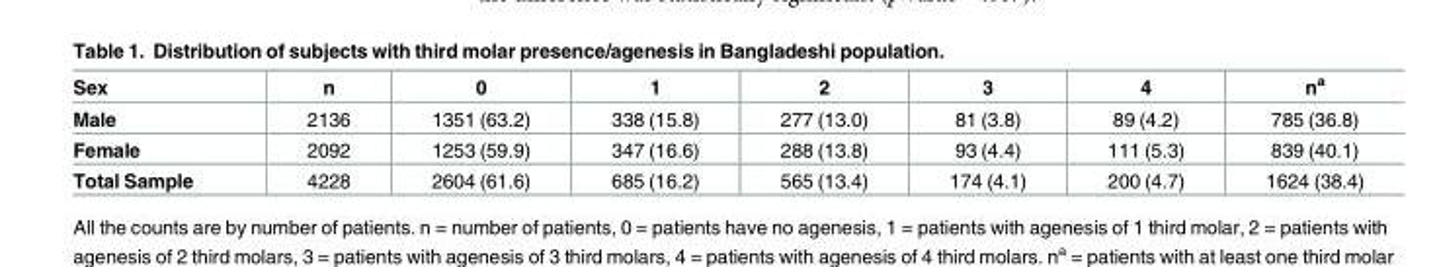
<table><thead><tr><td>Sex</td><td>n</td><td>0</td><td>1</td><td>2</td><td>3</td><td>4</td><td>n<sup>a</sup></td></tr></thead><tbody><tr><td>Male</td><td>2136</td><td>1351 (63.2)</td><td>338 (15.8)</td><td>277 (13.0)</td><td>81 (3.8)</td><td>89 (4.2)</td><td>785 (36.8)</td></tr><tr><td>Female</td><td>2092</td><td>1253 (59.9)</td><td>347 (16.6)</td><td>288 (13.8)</td><td>93 (4.4)</td><td>111 (5.3)</td><td>839 (40.1)</td></tr><tr><td>Total Sample</td><td>4228</td><td>2604 (61.6)</td><td>685 (16.2)</td><td>565 (13.4)</td><td>174 (4.1)</td><td>200 (4.7)</td><td>1624 (38.4)</td></tr></tbody></table>